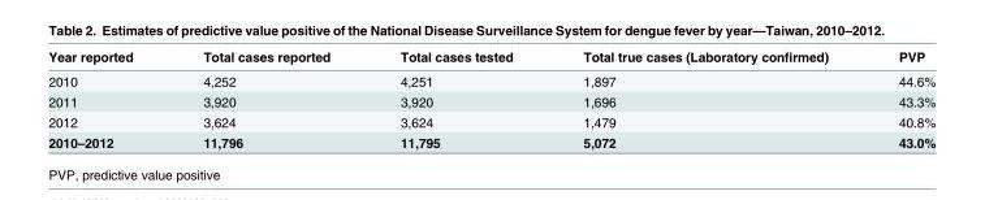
<table><thead><tr><td>Year reported</td><td>Total cases reported</td><td>Total cases tested</td><td>Total true cases (Laboratory confirmed)</td><td>PVP</td></tr></thead><tbody><tr><td>2010</td><td>4,252</td><td>4,251</td><td>1,897</td><td>44.6%</td></tr><tr><td>2011</td><td>3,920</td><td>3,920</td><td>1,696</td><td>43.3%</td></tr><tr><td>2012</td><td>3,624</td><td>3,624</td><td>1,479</td><td>40.8%</td></tr><tr><td>2010–2012</td><td>11,796</td><td>11,795</td><td>5,072</td><td>43.0%</td></tr></tbody></table>